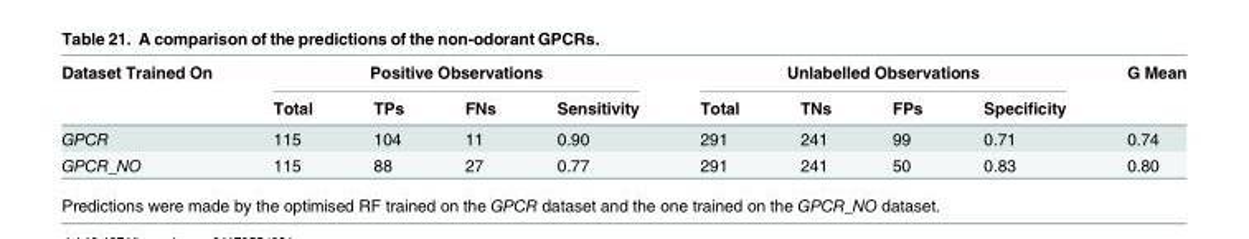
<table><thead><tr><td rowspan="2">Dataset Trained On</td><td colspan="4">Positive Observations</td><td colspan="4">Unlabelled Observations</td><td rowspan="2">G Mean</td></tr><tr><td>Total</td><td>TPs</td><td>FNs</td><td>Sensitivity</td><td>Total</td><td>TNs</td><td>FPs</td><td>Specificity</td></tr></thead><tbody><tr><td>GPCR</td><td>115</td><td>104</td><td>11</td><td>0.90</td><td>291</td><td>241</td><td>99</td><td>0.71</td><td>0.74</td></tr><tr><td>GPCR_NO</td><td>115</td><td>88</td><td>27</td><td>0.77</td><td>291</td><td>241</td><td>50</td><td>0.83</td><td>0.80</td></tr></tbody></table>